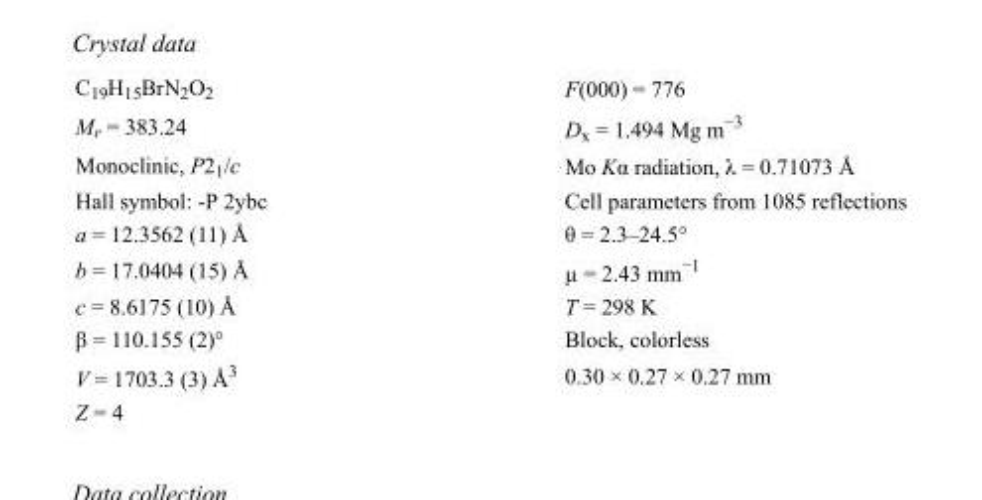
<table><tbody><tr><td>C<sub>19</sub>H<sub>15</sub>BrN<sub>2</sub>O<sub>2</sub></td><td>F(000) = 776</td></tr><tr><td>M<sub>r</sub> = 383.24</td><td>D<sub>x</sub> = 1.494 Mg m<sup>−3</sup></td></tr><tr><td>Monoclinic, P2<sub>1</sub>/c</td><td>Mo Kα radiation, λ = 0.71073 Å</td></tr><tr><td>Hall symbol: -P 2ybc</td><td>Cell parameters from 1085 reflections</td></tr><tr><td>a = 12.3562 (11) Å</td><td>θ = 2.3–24.5°</td></tr><tr><td>b = 17.0404 (15) Å</td><td>µ = 2.43 mm<sup>−1</sup></td></tr><tr><td>c = 8.6175 (10) Å</td><td>T = 298 K</td></tr><tr><td>β = 110.155 (2)°</td><td>Block, colorless</td></tr><tr><td>V = 1703.3 (3) Å<sup>3</sup></td><td>0.30 × 0.27 × 0.27 mm</td></tr><tr><td>Z = 4</td><td></td></tr></tbody></table>